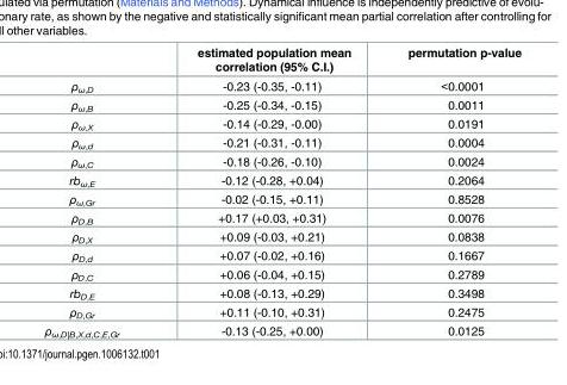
<table><thead><tr><td></td><td>estimated population mean correlation (95% C.I.)</td><td>permutation p-value</td></tr></thead><tbody><tr><td>ρ<sub>ω,D</sub></td><td>-0.23 (-0.35, -0.11)</td><td>&lt;0.0001</td></tr><tr><td>ρ<sub>ω,B</sub></td><td>-0.25 (-0.34, -0.15)</td><td>0.0011</td></tr><tr><td>ρ<sub>ω,X</sub></td><td>-0.14 (-0.29, -0.00)</td><td>0.0191</td></tr><tr><td>ρ<sub>ω,d</sub></td><td>-0.21 (-0.31, -0.11)</td><td>0.0004</td></tr><tr><td>ρ<sub>ω,C</sub></td><td>-0.18 (-0.26, -0.10)</td><td>0.0024</td></tr><tr><td>rb<sub>ω,E</sub></td><td>-0.12 (-0.28, +0.04)</td><td>0.2064</td></tr><tr><td>ρ<sub>ω,Gr</sub></td><td>-0.02 (-0.15, +0.11)</td><td>0.8528</td></tr><tr><td>ρ<sub>D,B</sub></td><td>+0.17 (+0.03, +0.31)</td><td>0.0076</td></tr><tr><td>ρ<sub>D,X</sub></td><td>+0.09 (-0.03, +0.21)</td><td>0.0838</td></tr><tr><td>ρ<sub>D,d</sub></td><td>+0.07 (-0.02, +0.16)</td><td>0.1667</td></tr><tr><td>ρ<sub>D,C</sub></td><td>+0.06 (-0.04, +0.15)</td><td>0.2789</td></tr><tr><td>rb<sub>D,E</sub></td><td>+0.08 (-0.13, +0.29)</td><td>0.3498</td></tr><tr><td>ρ<sub>D,Gr</sub></td><td>+0.11 (-0.10, +0.31)</td><td>0.2475</td></tr><tr><td>ρ<sub>ω,D|B,X,d,C,E,Gr</sub></td><td>-0.13 (-0.25, +0.00)</td><td>0.0125</td></tr></tbody></table>